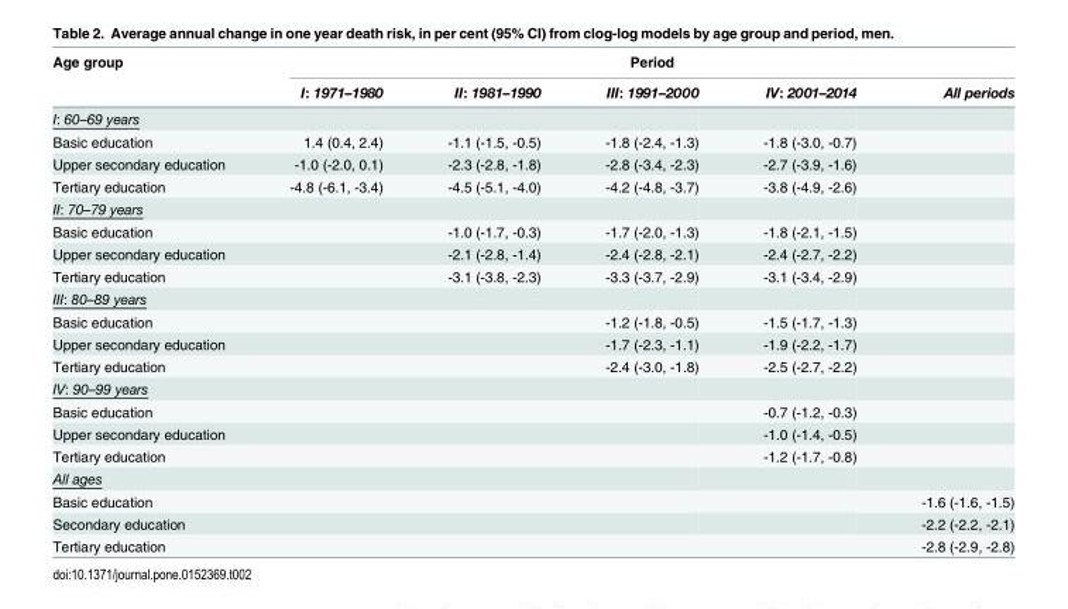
<table><thead><tr><td rowspan="2">Age group</td><td colspan="5">Period</td></tr><tr><td>I: 1971–1980</td><td>II: 1981–1990</td><td>III: 1991–2000</td><td>IV: 2001–2014</td><td>All periods</td></tr></thead><tbody><tr><td colspan="6">I: 60–69 years</td></tr><tr><td>Basic education</td><td>1.4 (0.4, 2.4)</td><td>-1.1 (-1.5, -0.5)</td><td>-1.8 (-2.4, -1.3)</td><td>-1.8 (-3.0, -0.7)</td><td></td></tr><tr><td>Upper secondary education</td><td>-1.0 (-2.0, 0.1)</td><td>-2.3 (-2.8, -1.8)</td><td>-2.8 (-3.4, -2.3)</td><td>-2.7 (-3.9, -1.6)</td><td></td></tr><tr><td>Tertiary education</td><td>-4.8 (-6.1, -3.4)</td><td>-4.5 (-5.1, -4.0)</td><td>-4.2 (-4.8, -3.7)</td><td>-3.8 (-4.9, -2.6)</td><td></td></tr><tr><td colspan="6">II: 70–79 years</td></tr><tr><td>Basic education</td><td></td><td>-1.0 (-1.7, -0.3)</td><td>-1.7 (-2.0, -1.3)</td><td>-1.8 (-2.1, -1.5)</td><td></td></tr><tr><td>Upper secondary education</td><td></td><td>-2.1 (-2.8, -1.4)</td><td>-2.4 (-2.8, -2.1)</td><td>-2.4 (-2.7, -2.2)</td><td></td></tr><tr><td>Tertiary education</td><td></td><td>-3.1 (-3.8, -2.3)</td><td>-3.3 (-3.7, -2.9)</td><td>-3.1 (-3.4, -2.9)</td><td></td></tr><tr><td colspan="6">III: 80–89 years</td></tr><tr><td>Basic education</td><td></td><td></td><td>-1.2 (-1.8, -0.5)</td><td>-1.5 (-1.7, -1.3)</td><td></td></tr><tr><td>Upper secondary education</td><td></td><td></td><td>-1.7 (-2.3, -1.1)</td><td>-1.9 (-2.2, -1.7)</td><td></td></tr><tr><td>Tertiary education</td><td></td><td></td><td>-2.4 (-3.0, -1.8)</td><td>-2.5 (-2.7, -2.2)</td><td></td></tr><tr><td colspan="6">IV: 90–99 years</td></tr><tr><td>Basic education</td><td></td><td></td><td></td><td>-0.7 (-1.2, -0.3)</td><td></td></tr><tr><td>Upper secondary education</td><td></td><td></td><td></td><td>-1.0 (-1.4, -0.5)</td><td></td></tr><tr><td>Tertiary education</td><td></td><td></td><td></td><td>-1.2 (-1.7, -0.8)</td><td></td></tr><tr><td colspan="6">All ages</td></tr><tr><td>Basic education</td><td></td><td></td><td></td><td></td><td>-1.6 (-1.6, -1.5)</td></tr><tr><td>Secondary education</td><td></td><td></td><td></td><td></td><td>-2.2 (-2.2, -2.1)</td></tr><tr><td>Tertiary education</td><td></td><td></td><td></td><td></td><td>-2.8 (-2.9, -2.8)</td></tr></tbody></table>